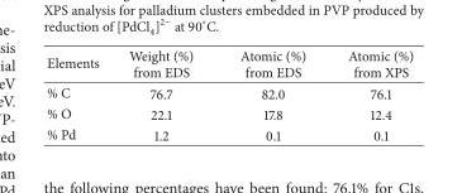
<table><thead><tr><td>Elements</td><td>Weight (%) from EDS</td><td>Atomic (%) from EDS</td><td>Atomic (%) from XPS</td></tr></thead><tbody><tr><td>% C</td><td>76.7</td><td>82.0</td><td>76.1</td></tr><tr><td>% O</td><td>22.1</td><td>17.8</td><td>12.4</td></tr><tr><td>% Pd</td><td>1.2</td><td>0.1</td><td>0.1</td></tr></tbody></table>